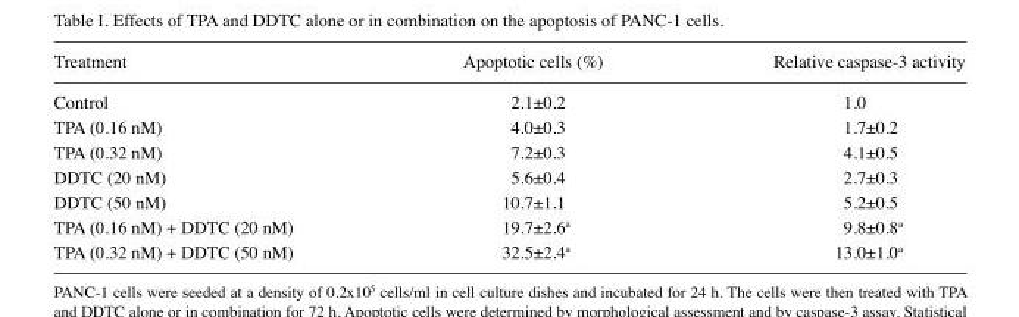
<table><thead><tr><td>Treatment</td><td>Apoptotic cells (%)</td><td>Relative caspase-3 activity</td></tr></thead><tbody><tr><td>Control</td><td>2.1±0.2</td><td>1.0</td></tr><tr><td>TPA (0.16 nM)</td><td>4.0±0.3</td><td>1.7±0.2</td></tr><tr><td>TPA (0.32 nM)</td><td>7.2±0.3</td><td>4.1±0.5</td></tr><tr><td>DDTC (20 nM)</td><td>5.6±0.4</td><td>2.7±0.3</td></tr><tr><td>DDTC (50 nM)</td><td>10.7±1.1</td><td>5.2±0.5</td></tr><tr><td>TPA (0.16 nM) + DDTC (20 nM)</td><td>19.7±2.6<sup>a</sup></td><td>9.8±0.8<sup>a</sup></td></tr><tr><td>TPA (0.32 nM) + DDTC (50 nM)</td><td>32.5±2.4<sup>a</sup></td><td>13.0±1.0<sup>a</sup></td></tr></tbody></table>